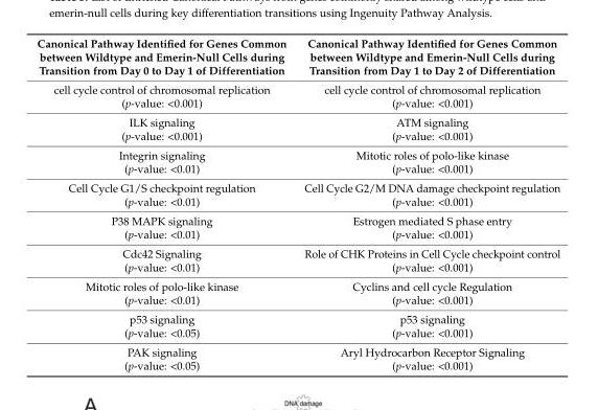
<table><thead><tr><td>Canonical Pathway Identified for Genes Common between Wildtype and Emerin-Null Cells during Transition from Day 0 to Day 1 of Differentiation</td><td>Canonical Pathway Identified for Genes Common between Wildtype and Emerin-Null Cells during Transition from Day 1 to Day 2 of Differentiation</td></tr></thead><tbody><tr><td>cell cycle control of chromosomal replication</td><td>cell cycle control of chromosomal replication</td></tr><tr><td>(p-value: &lt;0.001)</td><td>(p-value: &lt;0.001)</td></tr><tr><td>ILK signaling</td><td>ATM signaling</td></tr><tr><td>(p-value: &lt;0.001)</td><td>(p-value: &lt;0.001)</td></tr><tr><td>Integrin signaling</td><td>Mitotic roles of polo-like kinase</td></tr><tr><td>(p-value: &lt;0.01)</td><td>(p-value: &lt;0.001)</td></tr><tr><td>Cell Cycle G1/S checkpoint regulation</td><td>Cell Cycle G2/M DNA damage checkpoint regulation</td></tr><tr><td>(p-value: &lt;0.01)</td><td>(p-value: &lt;0.001)</td></tr><tr><td>P38 MAPK signaling</td><td>Estrogen mediated S phase entry</td></tr><tr><td>(p-value: &lt;0.01)</td><td>(p-value: &lt;0.001)</td></tr><tr><td>Cdc42 Signaling</td><td>Role of CHK Proteins in Cell Cycle checkpoint control</td></tr><tr><td>(p-value: &lt;0.01)</td><td>(p-value: &lt;0.001)</td></tr><tr><td>Mitotic roles of polo-like kinase</td><td>Cyclins and cell cycle Regulation</td></tr><tr><td>(p-value: &lt;0.01)</td><td>(p-value: &lt;0.001)</td></tr><tr><td>p53 signaling</td><td>p53 signaling</td></tr><tr><td>(p-value: &lt;0.05)</td><td>(p-value: &lt;0.001)</td></tr><tr><td>PAK signaling</td><td>Aryl Hydrocarbon Receptor Signaling</td></tr><tr><td>(p-value: &lt;0.05) Cells 2017, 6, x FOR PEER REVIEW</td><td>(p-value: &lt;0.001) 22</td></tr></tbody></table>